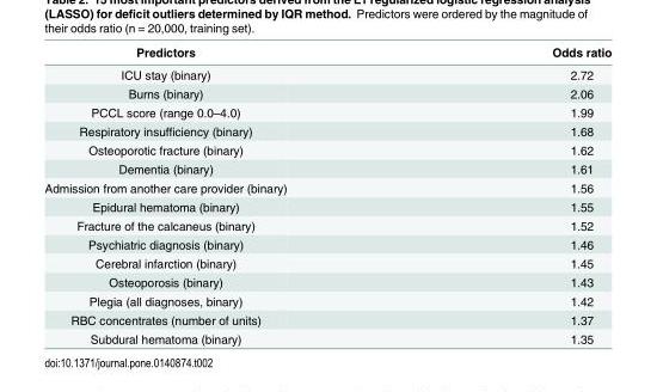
<table><thead><tr><td>Predictors</td><td>Odds ratio</td></tr></thead><tbody><tr><td>ICU stay (binary)</td><td>2.72</td></tr><tr><td>Burns (binary)</td><td>2.06</td></tr><tr><td>PCCL score (range 0.0–4.0)</td><td>1.99</td></tr><tr><td>Respiratory insufficiency (binary)</td><td>1.68</td></tr><tr><td>Osteoporotic fracture (binary)</td><td>1.62</td></tr><tr><td>Dementia (binary)</td><td>1.61</td></tr><tr><td>Admission from another care provider (binary)</td><td>1.56</td></tr><tr><td>Epidural hematoma (binary)</td><td>1.55</td></tr><tr><td>Fracture of the calcaneus (binary)</td><td>1.52</td></tr><tr><td>Psychiatric diagnosis (binary)</td><td>1.46</td></tr><tr><td>Cerebral infarction (binary)</td><td>1.45</td></tr><tr><td>Osteoporosis (binary)</td><td>1.43</td></tr><tr><td>Plegia (all diagnoses, binary)</td><td>1.42</td></tr><tr><td>RBC concentrates (number of units)</td><td>1.37</td></tr><tr><td>Subdural hematoma (binary)</td><td>1.35</td></tr></tbody></table>